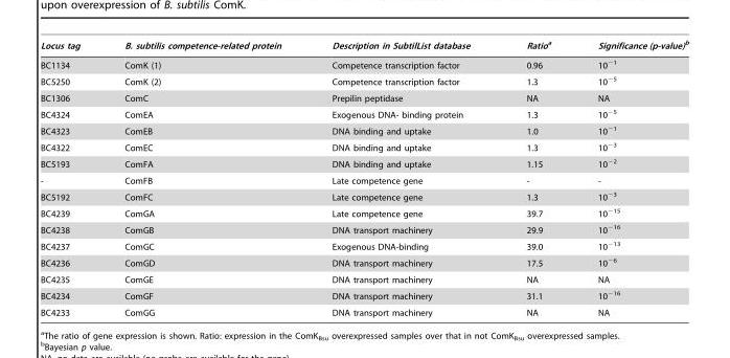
<table><thead><tr><td>Locus tag</td><td>B. subtilis competence-related protein</td><td>Description in SubtilList database</td><td>Ratioa</td><td>Significance (p-value)b</td></tr></thead><tbody><tr><td>BC1134</td><td>ComK (1)</td><td>Competence transcription factor</td><td>0.96</td><td>10<sup>−1</sup></td></tr><tr><td>BC5250</td><td>ComK (2)</td><td>Competence transcription factor</td><td>1.3</td><td>10<sup>−5</sup></td></tr><tr><td>BC1306</td><td>ComC</td><td>Prepilin peptidase</td><td>NA</td><td>NA</td></tr><tr><td>BC4324</td><td>ComEA</td><td>Exogenous DNA- binding protein</td><td>1.3</td><td>10<sup>−5</sup></td></tr><tr><td>BC4323</td><td>ComEB</td><td>DNA binding and uptake</td><td>1.0</td><td>10<sup>−1</sup></td></tr><tr><td>BC4322</td><td>ComEC</td><td>DNA binding and uptake</td><td>1.3</td><td>10<sup>−3</sup></td></tr><tr><td>BC5193</td><td>ComFA</td><td>DNA binding and uptake</td><td>1.15</td><td>10<sup>−2</sup></td></tr><tr><td>-</td><td>ComFB</td><td>Late competence gene</td><td>-</td><td>-</td></tr><tr><td>BC5192</td><td>ComFC</td><td>Late competence gene</td><td>1.3</td><td>10<sup>−3</sup></td></tr><tr><td>BC4239</td><td>ComGA</td><td>Late competence gene</td><td>39.7</td><td>10<sup>−15</sup></td></tr><tr><td>BC4238</td><td>ComGB</td><td>DNA transport machinery</td><td>29.9</td><td>10<sup>−16</sup></td></tr><tr><td>BC4237</td><td>ComGC</td><td>Exogenous DNA-binding</td><td>39.0</td><td>10<sup>−13</sup></td></tr><tr><td>BC4236</td><td>ComGD</td><td>DNA transport machinery</td><td>17.5</td><td>10<sup>−6</sup></td></tr><tr><td>BC4235</td><td>ComGE</td><td>DNA transport machinery</td><td>NA</td><td>NA</td></tr><tr><td>BC4234</td><td>ComGF</td><td>DNA transport machinery</td><td>31.1</td><td>10<sup>−16</sup></td></tr><tr><td>BC4233</td><td>ComGG</td><td>DNA transport machinery</td><td>NA</td><td>NA</td></tr></tbody></table>